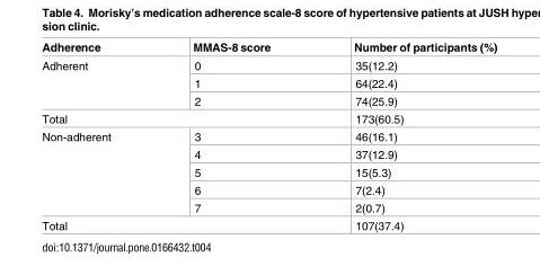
<table><thead><tr><td>Adherence</td><td>MMAS-8 score</td><td>Number of participants (%)</td></tr></thead><tbody><tr><td rowspan="3">Adherent</td><td>0</td><td>35(12.2)</td></tr><tr><td>1</td><td>64(22.4)</td></tr><tr><td>2</td><td>74(25.9)</td></tr><tr><td colspan="2">Total</td><td>173(60.5)</td></tr><tr><td rowspan="5">Non-adherent</td><td>3</td><td>46(16.1)</td></tr><tr><td>4</td><td>37(12.9)</td></tr><tr><td>5</td><td>15(5.3)</td></tr><tr><td>6</td><td>7(2.4)</td></tr><tr><td>7</td><td>2(0.7)</td></tr><tr><td colspan="2">Total</td><td>107(37.4)</td></tr></tbody></table>